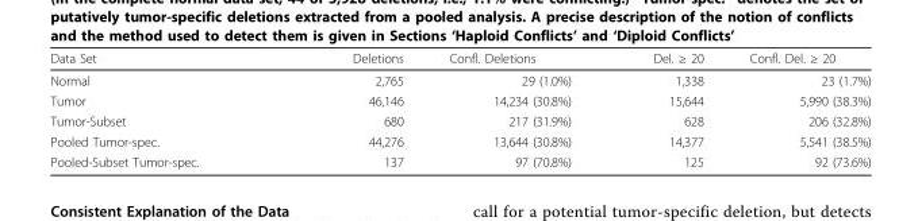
<table><thead><tr><td>Data Set</td><td>Deletions</td><td>Confl. Deletions</td><td>Del. ≥ 20</td><td>Confl. Del. ≥ 20</td></tr></thead><tbody><tr><td>Normal</td><td>2,765</td><td>29 (1.0%)</td><td>1,338</td><td>23 (1.7%)</td></tr><tr><td>Tumor</td><td>46,146</td><td>14,234 (30.8%)</td><td>15,644</td><td>5,990 (38.3%)</td></tr><tr><td>Tumor-Subset</td><td>680</td><td>217 (31.9%)</td><td>628</td><td>206 (32.8%)</td></tr><tr><td>Pooled Tumor-spec.</td><td>44,276</td><td>13,644 (30.8%)</td><td>14,377</td><td>5,541 (38.5%)</td></tr><tr><td>Pooled-Subset Tumor-spec.</td><td>137</td><td>97 (70.8%)</td><td>125</td><td>92 (73.6%)</td></tr></tbody></table>